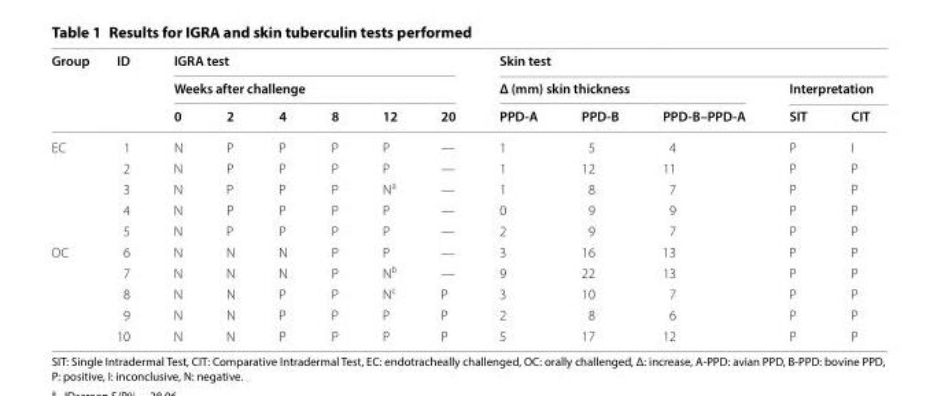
<table><thead><tr><td rowspan="3">Group</td><td rowspan="3">ID</td><td rowspan="2" colspan="6">IGRA test Weeks after challenge</td><td colspan="5">Skin test</td></tr><tr><td colspan="3">Δ (mm) skin thickness</td><td colspan="2">Interpretation</td></tr><tr><td>0</td><td>2</td><td>4</td><td>8</td><td>12</td><td>20</td><td>PPD‑A</td><td>PPD‑B</td><td>PPD‑B–PPD‑A</td><td>SIT</td><td>CIT</td></tr></thead><tbody><tr><td rowspan="5">EC</td><td>1</td><td>N</td><td>P</td><td>P</td><td>P</td><td>P</td><td>—</td><td>1</td><td>5</td><td>4</td><td>P</td><td>I</td></tr><tr><td>2</td><td>N</td><td>P</td><td>P</td><td>P</td><td>P</td><td>—</td><td>1</td><td>12</td><td>11</td><td>P</td><td>P</td></tr><tr><td>3</td><td>N</td><td>P</td><td>P</td><td>P</td><td>N<sup>a</sup></td><td>—</td><td>1</td><td>8</td><td>7</td><td>P</td><td>P</td></tr><tr><td>4</td><td>N</td><td>P</td><td>P</td><td>P</td><td>P</td><td>—</td><td>0</td><td>9</td><td>9</td><td>P</td><td>P</td></tr><tr><td>5</td><td>N</td><td>P</td><td>P</td><td>P</td><td>P</td><td>—</td><td>2</td><td>9</td><td>7</td><td>P</td><td>P</td></tr><tr><td rowspan="5">OC</td><td>6</td><td>N</td><td>N</td><td>N</td><td>P</td><td>P</td><td>—</td><td>3</td><td>16</td><td>13</td><td>P</td><td>P</td></tr><tr><td>7</td><td>N</td><td>N</td><td>N</td><td>P</td><td>N<sup>b</sup></td><td>—</td><td>9</td><td>22</td><td>13</td><td>P</td><td>P</td></tr><tr><td>8</td><td>N</td><td>N</td><td>P</td><td>P</td><td>N<sup>c</sup></td><td>P</td><td>3</td><td>10</td><td>7</td><td>P</td><td>P</td></tr><tr><td>9</td><td>N</td><td>N</td><td>P</td><td>P</td><td>P</td><td>P</td><td>2</td><td>8</td><td>6</td><td>P</td><td>P</td></tr><tr><td>10</td><td>N</td><td>N</td><td>P</td><td>P</td><td>P</td><td>P</td><td>5</td><td>17</td><td>12</td><td>P</td><td>P</td></tr></tbody></table>